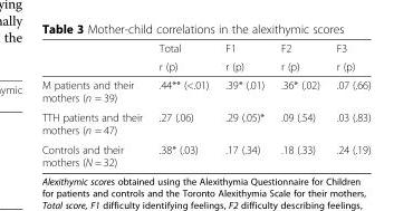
<table><thead><tr><td rowspan="2"></td><td rowspan="2">Total r (p)</td><td rowspan="2">F1 r (p)</td><td rowspan="2">F2 r (p)</td><td rowspan="2">F3 r (p)</td></tr><tr></tr></thead><tbody><tr><td>M patients and their mothers (n = 39)</td><td>.44** (&lt;.01)</td><td>.39* (.01)</td><td>.36* (.02)</td><td>.07 (.66)</td></tr><tr><td>TTH patients and their mothers (n = 47)</td><td>.27 (.06)</td><td>.29 (.05)*</td><td>.09 (.54)</td><td>.03 (.83)</td></tr><tr><td>Controls and their mothers (N = 32)</td><td>.38* (.03)</td><td>.17 (.34)</td><td>.18 (.33)</td><td>.24 (.19)</td></tr></tbody></table>